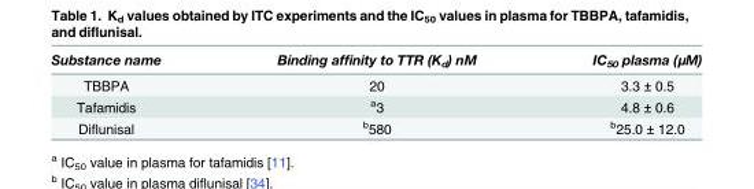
<table><thead><tr><td>Substance name</td><td>Binding affinity to TTR (K<sub>d</sub>) nM</td><td>IC<sub>50</sub> plasma (μM)</td></tr></thead><tbody><tr><td>TBBPA</td><td>20</td><td>3.3 ± 0.5</td></tr><tr><td>Tafamidis</td><td><sup>a</sup>3</td><td>4.8 ± 0.6</td></tr><tr><td>Diflunisal</td><td><sup>b</sup>580</td><td><sup>b</sup>25.0 ± 12.0</td></tr></tbody></table>